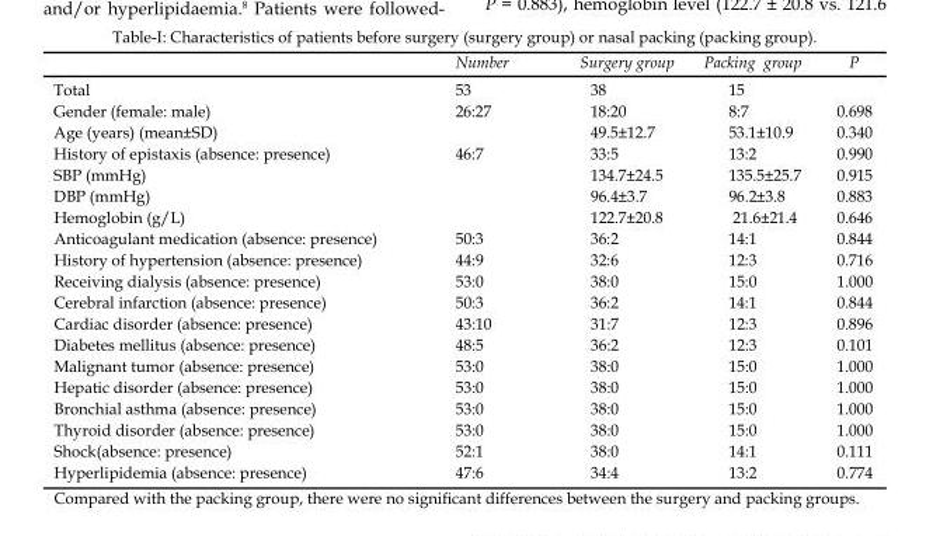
<table><thead><tr><td></td><td>Number</td><td>Surgery group</td><td>Packing group</td><td>P</td></tr></thead><tbody><tr><td>Total</td><td>53</td><td>38</td><td>15</td><td></td></tr><tr><td>Gender (female: male)</td><td>26:27</td><td>18:20</td><td>8:7</td><td>0.698</td></tr><tr><td>Age (years) (mean±SD)</td><td></td><td>49.5±12.7</td><td>53.1±10.9</td><td>0.340</td></tr><tr><td>History of epistaxis (absence: presence)</td><td>46:7</td><td>33:5</td><td>13:2</td><td>0.990</td></tr><tr><td>SBP (mmHg)</td><td></td><td>134.7±24.5</td><td>135.5±25.7</td><td>0.915</td></tr><tr><td>DBP (mmHg)</td><td></td><td>96.4±3.7</td><td>96.2±3.8</td><td>0.883</td></tr><tr><td>Hemoglobin (g/L)</td><td></td><td>122.7±20.8</td><td>21.6±21.4</td><td>0.646</td></tr><tr><td>Anticoagulant medication (absence: presence)</td><td>50:3</td><td>36:2</td><td>14:1</td><td>0.844</td></tr><tr><td>History of hypertension (absence: presence)</td><td>44:9</td><td>32:6</td><td>12:3</td><td>0.716</td></tr><tr><td>Receiving dialysis (absence: presence)</td><td>53:0</td><td>38:0</td><td>15:0</td><td>1.000</td></tr><tr><td>Cerebral infarction (absence: presence)</td><td>50:3</td><td>36:2</td><td>14:1</td><td>0.844</td></tr><tr><td>Cardiac disorder (absence: presence)</td><td>43:10</td><td>31:7</td><td>12:3</td><td>0.896</td></tr><tr><td>Diabetes mellitus (absence: presence)</td><td>48:5</td><td>36:2</td><td>12:3</td><td>0.101</td></tr><tr><td>Malignant tumor (absence: presence)</td><td>53:0</td><td>38:0</td><td>15:0</td><td>1.000</td></tr><tr><td>Hepatic disorder (absence: presence)</td><td>53:0</td><td>38:0</td><td>15:0</td><td>1.000</td></tr><tr><td>Bronchial asthma (absence: presence)</td><td>53:0</td><td>38:0</td><td>15:0</td><td>1.000</td></tr><tr><td>Thyroid disorder (absence: presence)</td><td>53:0</td><td>38:0</td><td>15:0</td><td>1.000</td></tr><tr><td>Shock(absence: presence)</td><td>52:1</td><td>38:0</td><td>14:1</td><td>0.111</td></tr><tr><td>Hyperlipidemia (absence: presence)</td><td>47:6</td><td>34:4</td><td>13:2</td><td>0.774</td></tr></tbody></table>